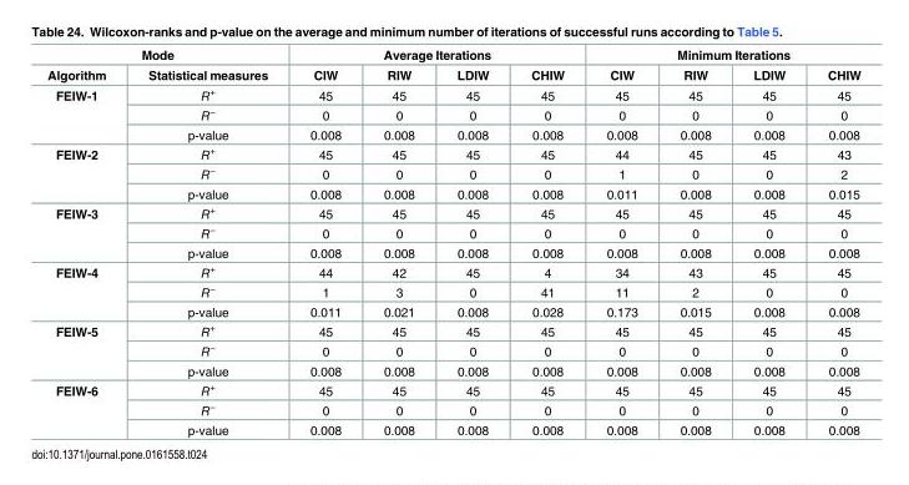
<table><thead><tr><td colspan="2">Mode</td><td colspan="4">Average Iterations</td><td colspan="4">Minimum Iterations</td></tr><tr><td>Algorithm</td><td>Statistical measures</td><td>CIW</td><td>RIW</td><td>LDIW</td><td>CHIW</td><td>CIW</td><td>RIW</td><td>LDIW</td><td>CHIW</td></tr></thead><tbody><tr><td rowspan="3">FEIW-1</td><td>R<sup>+</sup></td><td>45</td><td>45</td><td>45</td><td>45</td><td>45</td><td>45</td><td>45</td><td>45</td></tr><tr><td>R<sup>−</sup></td><td>0</td><td>0</td><td>0</td><td>0</td><td>0</td><td>0</td><td>0</td><td>0</td></tr><tr><td>p-value</td><td>0.008</td><td>0.008</td><td>0.008</td><td>0.008</td><td>0.008</td><td>0.008</td><td>0.008</td><td>0.008</td></tr><tr><td rowspan="3">FEIW-2</td><td>R<sup>+</sup></td><td>45</td><td>45</td><td>45</td><td>45</td><td>44</td><td>45</td><td>45</td><td>43</td></tr><tr><td>R<sup>−</sup></td><td>0</td><td>0</td><td>0</td><td>0</td><td>1</td><td>0</td><td>0</td><td>2</td></tr><tr><td>p-value</td><td>0.008</td><td>0.008</td><td>0.008</td><td>0.008</td><td>0.011</td><td>0.008</td><td>0.008</td><td>0.015</td></tr><tr><td rowspan="3">FEIW-3</td><td>R<sup>+</sup></td><td>45</td><td>45</td><td>45</td><td>45</td><td>45</td><td>45</td><td>45</td><td>45</td></tr><tr><td>R<sup>−</sup></td><td>0</td><td>0</td><td>0</td><td>0</td><td>0</td><td>0</td><td>0</td><td>0</td></tr><tr><td>p-value</td><td>0.008</td><td>0.008</td><td>0.008</td><td>0.008</td><td>0.008</td><td>0.008</td><td>0.008</td><td>0.008</td></tr><tr><td rowspan="3">FEIW-4</td><td>R<sup>+</sup></td><td>44</td><td>42</td><td>45</td><td>4</td><td>34</td><td>43</td><td>45</td><td>45</td></tr><tr><td>R<sup>−</sup></td><td>1</td><td>3</td><td>0</td><td>41</td><td>11</td><td>2</td><td>0</td><td>0</td></tr><tr><td>p-value</td><td>0.011</td><td>0.021</td><td>0.008</td><td>0.028</td><td>0.173</td><td>0.015</td><td>0.008</td><td>0.008</td></tr><tr><td rowspan="3">FEIW-5</td><td>R<sup>+</sup></td><td>45</td><td>45</td><td>45</td><td>45</td><td>45</td><td>45</td><td>45</td><td>45</td></tr><tr><td>R<sup>−</sup></td><td>0</td><td>0</td><td>0</td><td>0</td><td>0</td><td>0</td><td>0</td><td>0</td></tr><tr><td>p-value</td><td>0.008</td><td>0.008</td><td>0.008</td><td>0.008</td><td>0.008</td><td>0.008</td><td>0.008</td><td>0.008</td></tr><tr><td rowspan="3">FEIW-6</td><td>R<sup>+</sup></td><td>45</td><td>45</td><td>45</td><td>45</td><td>45</td><td>45</td><td>45</td><td>45</td></tr><tr><td>R<sup>−</sup></td><td>0</td><td>0</td><td>0</td><td>0</td><td>0</td><td>0</td><td>0</td><td>0</td></tr><tr><td>p-value</td><td>0.008</td><td>0.008</td><td>0.008</td><td>0.008</td><td>0.008</td><td>0.008</td><td>0.008</td><td>0.008</td></tr></tbody></table>